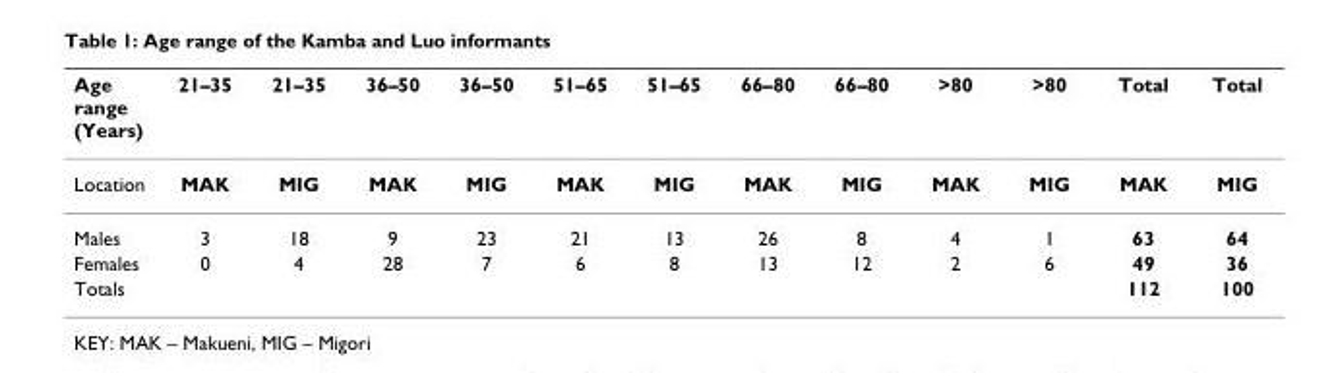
<table><thead><tr><td>Age range (Years)</td><td>21–35</td><td>21–35</td><td>36–50</td><td>36–50</td><td>51–65</td><td>51–65</td><td>66–80</td><td>66–80</td><td>&gt;80</td><td>&gt;80</td><td>Total</td><td>Total</td></tr></thead><tbody><tr><td>Location</td><td>MAK</td><td>MIG</td><td>MAK</td><td>MIG</td><td>MAK</td><td>MIG</td><td>MAK</td><td>MIG</td><td>MAK</td><td>MIG</td><td>MAK</td><td>MIG</td></tr><tr><td>Males</td><td>3</td><td>18</td><td>9</td><td>23</td><td>21</td><td>13</td><td>26</td><td>8</td><td>4</td><td>1</td><td>63</td><td>64</td></tr><tr><td>Females</td><td>0</td><td>4</td><td>28</td><td>7</td><td>6</td><td>8</td><td>13</td><td>12</td><td>2</td><td>6</td><td>49</td><td>36</td></tr><tr><td>Totals</td><td></td><td></td><td></td><td></td><td></td><td></td><td></td><td></td><td></td><td></td><td>112</td><td>100</td></tr></tbody></table>